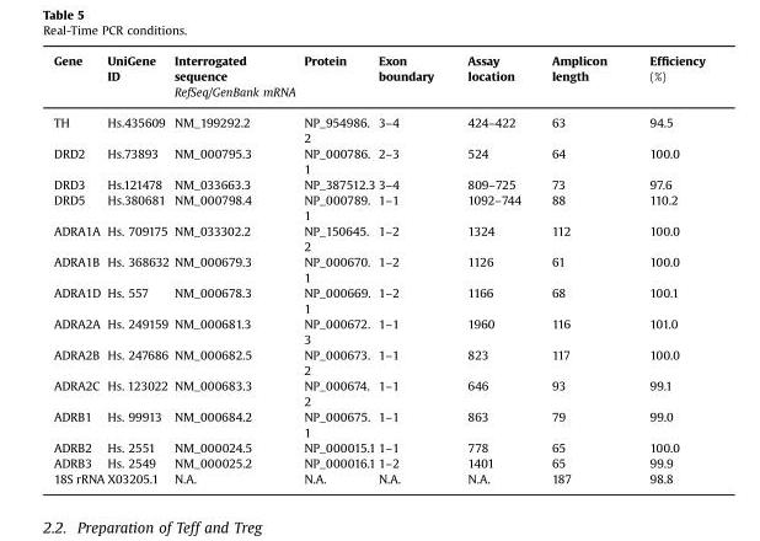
<table><thead><tr><td>Gene</td><td>UniGene ID</td><td>Interrogated sequence RefSeq/GenBank mRNA</td><td>Protein</td><td>Exon boundary</td><td>Assay location</td><td>Amplicon length</td><td>Efficiency (%)</td></tr></thead><tbody><tr><td>TH</td><td>Hs.435609</td><td>NM_199292.2</td><td>NP_954986. 2</td><td>3–4</td><td>424–422</td><td>63</td><td>94.5</td></tr><tr><td>DRD2</td><td>Hs.73893</td><td>NM_000795.3</td><td>NP_000786. 1</td><td>2–3</td><td>524</td><td>64</td><td>100.0</td></tr><tr><td>DRD3</td><td>Hs.121478</td><td>NM_033663.3</td><td>NP_387512.3</td><td>3–4</td><td>809–725</td><td>73</td><td>97.6</td></tr><tr><td>DRD5</td><td>Hs.380681</td><td>NM_000798.4</td><td>NP_000789. 1</td><td>1–1</td><td>1092–744</td><td>88</td><td>110.2</td></tr><tr><td>ADRA1A</td><td>Hs. 709175</td><td>NM_033302.2</td><td>NP_150645. 2</td><td>1–2</td><td>1324</td><td>112</td><td>100.0</td></tr><tr><td>ADRA1B</td><td>Hs. 368632</td><td>NM_000679.3</td><td>NP_000670. 1</td><td>1–2</td><td>1126</td><td>61</td><td>100.0</td></tr><tr><td>ADRA1D</td><td>Hs. 557</td><td>NM_000678.3</td><td>NP_000669. 1</td><td>1–2</td><td>1166</td><td>68</td><td>100.1</td></tr><tr><td>ADRA2A</td><td>Hs. 249159</td><td>NM_000681.3</td><td>NP_000672. 3</td><td>1–1</td><td>1960</td><td>116</td><td>101.0</td></tr><tr><td>ADRA2B</td><td>Hs. 247686</td><td>NM_000682.5</td><td>NP_000673. 2</td><td>1–1</td><td>823</td><td>117</td><td>100.0</td></tr><tr><td>ADRA2C</td><td>Hs. 123022</td><td>NM_000683.3</td><td>NP_000674. 2</td><td>1–1</td><td>646</td><td>93</td><td>99.1</td></tr><tr><td>ADRB1</td><td>Hs. 99913</td><td>NM_000684.2</td><td>NP_000675. 1</td><td>1–1</td><td>863</td><td>79</td><td>99.0</td></tr><tr><td>ADRB2</td><td>Hs. 2551</td><td>NM_000024.5</td><td>NP_000015.1</td><td>1–1</td><td>778</td><td>65</td><td>100.0</td></tr><tr><td>ADRB3</td><td>Hs. 2549</td><td>NM_000025.2</td><td>NP_000016.1</td><td>1–2</td><td>1401</td><td>65</td><td>99.9</td></tr><tr><td>18S rRNA</td><td>X03205.1</td><td>N.A.</td><td>N.A.</td><td>N.A.</td><td>N.A.</td><td>187</td><td>98.8</td></tr></tbody></table>